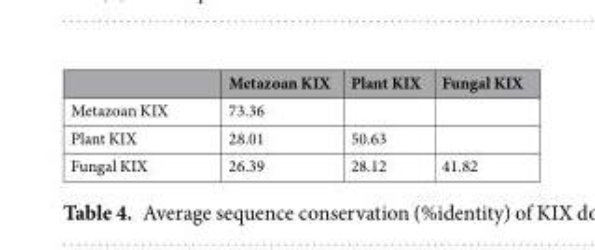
<table><thead><tr><td></td><td>Metazoan KIX</td><td>Plant KIX</td><td>Fungal KIX</td></tr></thead><tbody><tr><td>Metazoan KIX</td><td>73.36</td><td></td><td></td></tr><tr><td>Plant KIX</td><td>28.01</td><td>50.63</td><td></td></tr><tr><td>Fungal KIX</td><td>26.39</td><td>28.12</td><td>41.82</td></tr></tbody></table>